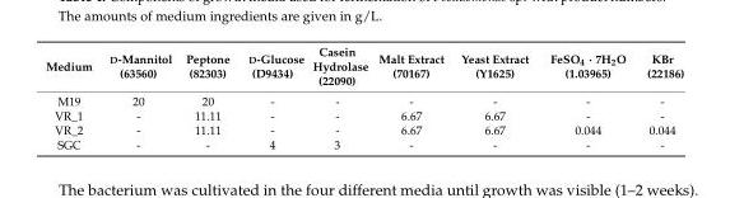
<table><thead><tr><td>Medium</td><td>D-Mannitol (63560)</td><td>Peptone (82303)</td><td>D-Glucose (D9434)</td><td>Casein Hydrolase (22090)</td><td>Malt Extract (70167)</td><td>Yeast Extract (Y1625)</td><td>FeSO4 · 7H2O (1.03965)</td><td>KBr (22186)</td></tr></thead><tbody><tr><td>M19</td><td>20</td><td>20</td><td>-</td><td>-</td><td>-</td><td>-</td><td>-</td><td>-</td></tr><tr><td>VR_1</td><td>-</td><td>11.11</td><td>-</td><td>-</td><td>6.67</td><td>6.67</td><td>-</td><td>-</td></tr><tr><td>VR_2</td><td>-</td><td>11.11</td><td>-</td><td>-</td><td>6.67</td><td>6.67</td><td>0.044</td><td>0.044</td></tr><tr><td>SGC</td><td>-</td><td>-</td><td>4</td><td>3</td><td>-</td><td>-</td><td>-</td><td>-</td></tr></tbody></table>